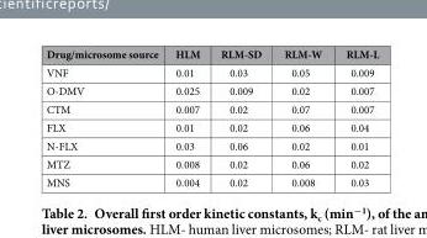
<table><thead><tr><td>Drug/microsome source</td><td>HLM</td><td>RLM-SD</td><td>RLM-W</td><td>RLM-L</td></tr></thead><tbody><tr><td>VNF</td><td>0.01</td><td>0.03</td><td>0.05</td><td>0.009</td></tr><tr><td>O-DMV</td><td>0.025</td><td>0.009</td><td>0.02</td><td>0.007</td></tr><tr><td>CTM</td><td>0.007</td><td>0.02</td><td>0.07</td><td>0.007</td></tr><tr><td>FLX</td><td>0.01</td><td>0.02</td><td>0.06</td><td>0.04</td></tr><tr><td>N-FLX</td><td>0.03</td><td>0.06</td><td>0.02</td><td>0.01</td></tr><tr><td>MTZ</td><td>0.008</td><td>0.02</td><td>0.06</td><td>0.02</td></tr><tr><td>MNS</td><td>0.004</td><td>0.02</td><td>0.008</td><td>0.03</td></tr></tbody></table>